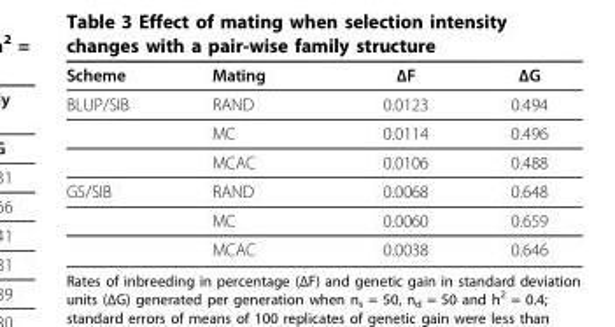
<table><thead><tr><td>Scheme</td><td>Mating</td><td>ΔF</td><td>ΔG</td></tr></thead><tbody><tr><td rowspan="3">BLUP/SIB</td><td>RAND</td><td>0.0123</td><td>0.494</td></tr><tr><td>MC</td><td>0.0114</td><td>0.496</td></tr><tr><td>MCAC</td><td>0.0106</td><td>0.488</td></tr><tr><td rowspan="3">GS/SIB</td><td>RAND</td><td>0.0068</td><td>0.648</td></tr><tr><td>MC</td><td>0.0060</td><td>0.659</td></tr><tr><td>MCAC</td><td>0.0038</td><td>0.646</td></tr></tbody></table>